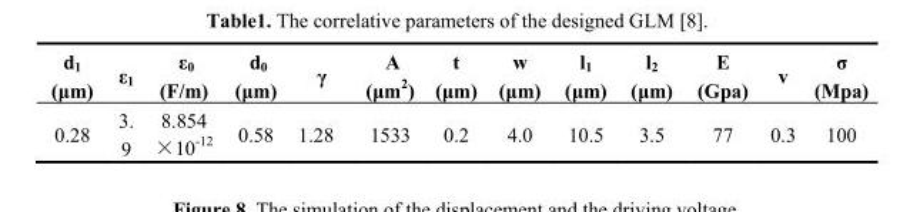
<table><thead><tr><td>d<sub>1</sub> (μm)</td><td>ε<sub>1</sub></td><td>ε<sub>0</sub> (F/m)</td><td>d<sub>0</sub> (μm)</td><td>γ</td><td>A (μm<sup>2</sup>)</td><td>t (μm)</td><td>w (μm)</td><td>l<sub>1</sub> (μm)</td><td>l<sub>2</sub> (μm)</td><td>E (Gpa)</td><td>v</td><td>σ (Mpa)</td></tr></thead><tbody><tr><td>0.28</td><td>3. 9</td><td>8.854 ×10<sup>-12</sup></td><td>0.58</td><td>1.28</td><td>1533</td><td>0.2</td><td>4.0</td><td>10.5</td><td>3.5</td><td>77</td><td>0.3</td><td>100</td></tr></tbody></table>